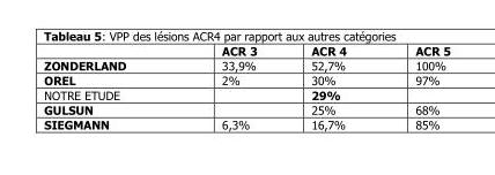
<table><thead><tr><td></td><td>ACR 3</td><td>ACR 4</td><td>ACR 5</td></tr></thead><tbody><tr><td>ZONDERLAND</td><td>33,9%</td><td>52,7%</td><td>100%</td></tr><tr><td>OREL</td><td>2%</td><td>30%</td><td>97%</td></tr><tr><td>NOTRE ETUDE</td><td></td><td>29%</td><td></td></tr><tr><td>GULSUN</td><td></td><td>25%</td><td>68%</td></tr><tr><td>SIEGMANN</td><td>6,3%</td><td>16,7%</td><td>85%</td></tr></tbody></table>